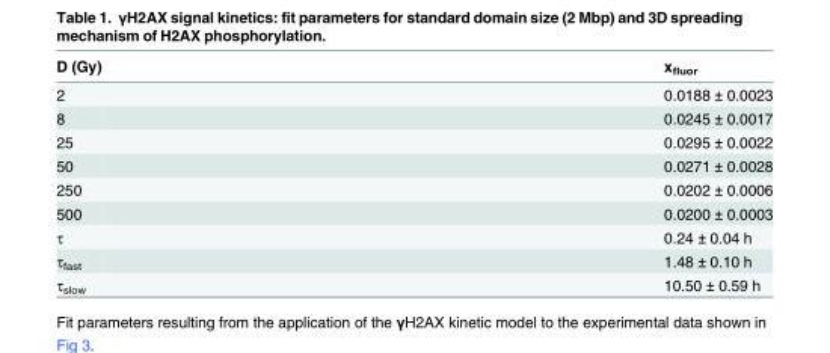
<table><thead><tr><td>D (Gy)</td><td>x<sub>fluor</sub></td></tr></thead><tbody><tr><td>2</td><td>0.0188 ± 0.0023</td></tr><tr><td>8</td><td>0.0245 ± 0.0017</td></tr><tr><td>25</td><td>0.0295 ± 0.0022</td></tr><tr><td>50</td><td>0.0271 ± 0.0028</td></tr><tr><td>250</td><td>0.0202 ± 0.0006</td></tr><tr><td>500</td><td>0.0200 ± 0.0003</td></tr><tr><td>τ</td><td>0.24 ± 0.04 h</td></tr><tr><td>τ<sub>fast</sub></td><td>1.48 ± 0.10 h</td></tr><tr><td>τ<sub>slow</sub></td><td>10.50 ± 0.59 h</td></tr></tbody></table>